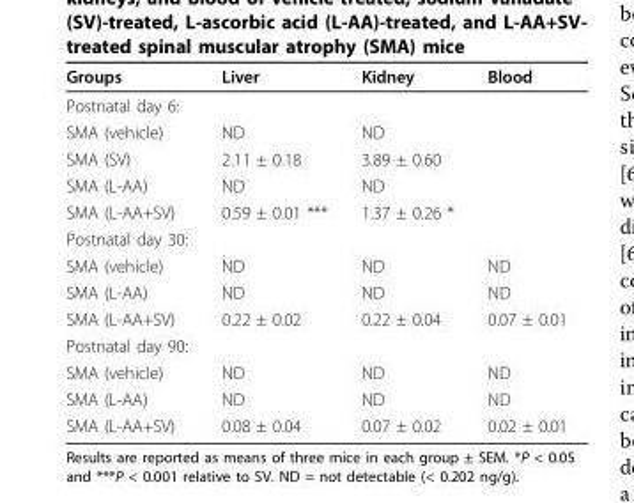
<table><thead><tr><td>Groups</td><td>Liver</td><td>Kidney</td><td>Blood</td></tr></thead><tbody><tr><td colspan="4">Postnatal day 6:</td></tr><tr><td>SMA (vehicle)</td><td>ND</td><td>ND</td><td></td></tr><tr><td>SMA (SV)</td><td>2.11 ± 0.18</td><td>3.89 ± 0.60</td><td></td></tr><tr><td>SMA (L-AA)</td><td>ND</td><td>ND</td><td></td></tr><tr><td>SMA (L-AA+SV)</td><td>0.59 ± 0.01 ***</td><td>1.37 ± 0.26 *</td><td></td></tr><tr><td colspan="4">Postnatal day 30:</td></tr><tr><td>SMA (vehicle)</td><td>ND</td><td>ND</td><td>ND</td></tr><tr><td>SMA (L-AA)</td><td>ND</td><td>ND</td><td>ND</td></tr><tr><td>SMA (L-AA+SV)</td><td>0.22 ± 0.02</td><td>0.22 ± 0.04</td><td>0.07 ± 0.01</td></tr><tr><td colspan="4">Postnatal day 90:</td></tr><tr><td>SMA (vehicle)</td><td>ND</td><td>ND</td><td>ND</td></tr><tr><td>SMA (L-AA)</td><td>ND</td><td>ND</td><td>ND</td></tr><tr><td>SMA (L-AA+SV)</td><td>0.08 ± 0.04</td><td>0.07 ± 0.02</td><td>0.02 ± 0.01</td></tr></tbody></table>